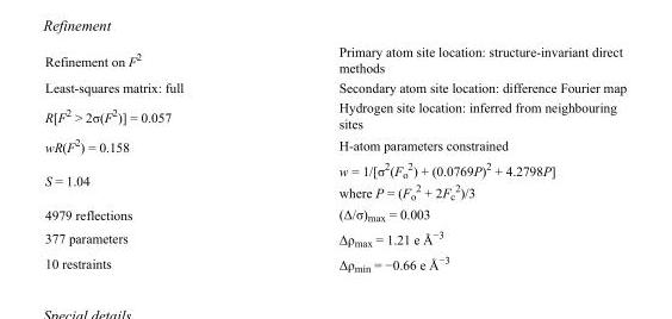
<table><tbody><tr><td>Refinement on F<sup>2</sup></td><td>Primary atom site location: structure-invariant direct methods</td></tr><tr><td>Least-squares matrix: full</td><td>Secondary atom site location: difference Fourier map</td></tr><tr><td>R[F<sup>2</sup> &gt; 2σ(F<sup>2</sup>)] = 0.057</td><td>Hydrogen site location: inferred from neighbouring sites</td></tr><tr><td>wR(F<sup>2</sup>) = 0.158</td><td>H-atom parameters constrained</td></tr><tr><td>S = 1.04</td><td>w = 1/[σ<sup>2</sup>(F<sub>o</sub> <sup>2</sup>) + (0.0769P)<sup>2</sup> + 4.2798P] where P = (F<sub>o</sub> <sup>2</sup> + 2F<sub>c</sub> <sup>2</sup>)/3</td></tr><tr><td>4979 reflections</td><td>(Δ/σ)<sub>max</sub> = 0.003</td></tr><tr><td>377 parameters</td><td>Δρ<sub>max</sub> = 1.21 e Å<sup>−3</sup></td></tr><tr><td>10 restraints</td><td>Δρ<sub>min</sub> = −0.66 e Å<sup>−3</sup></td></tr></tbody></table>